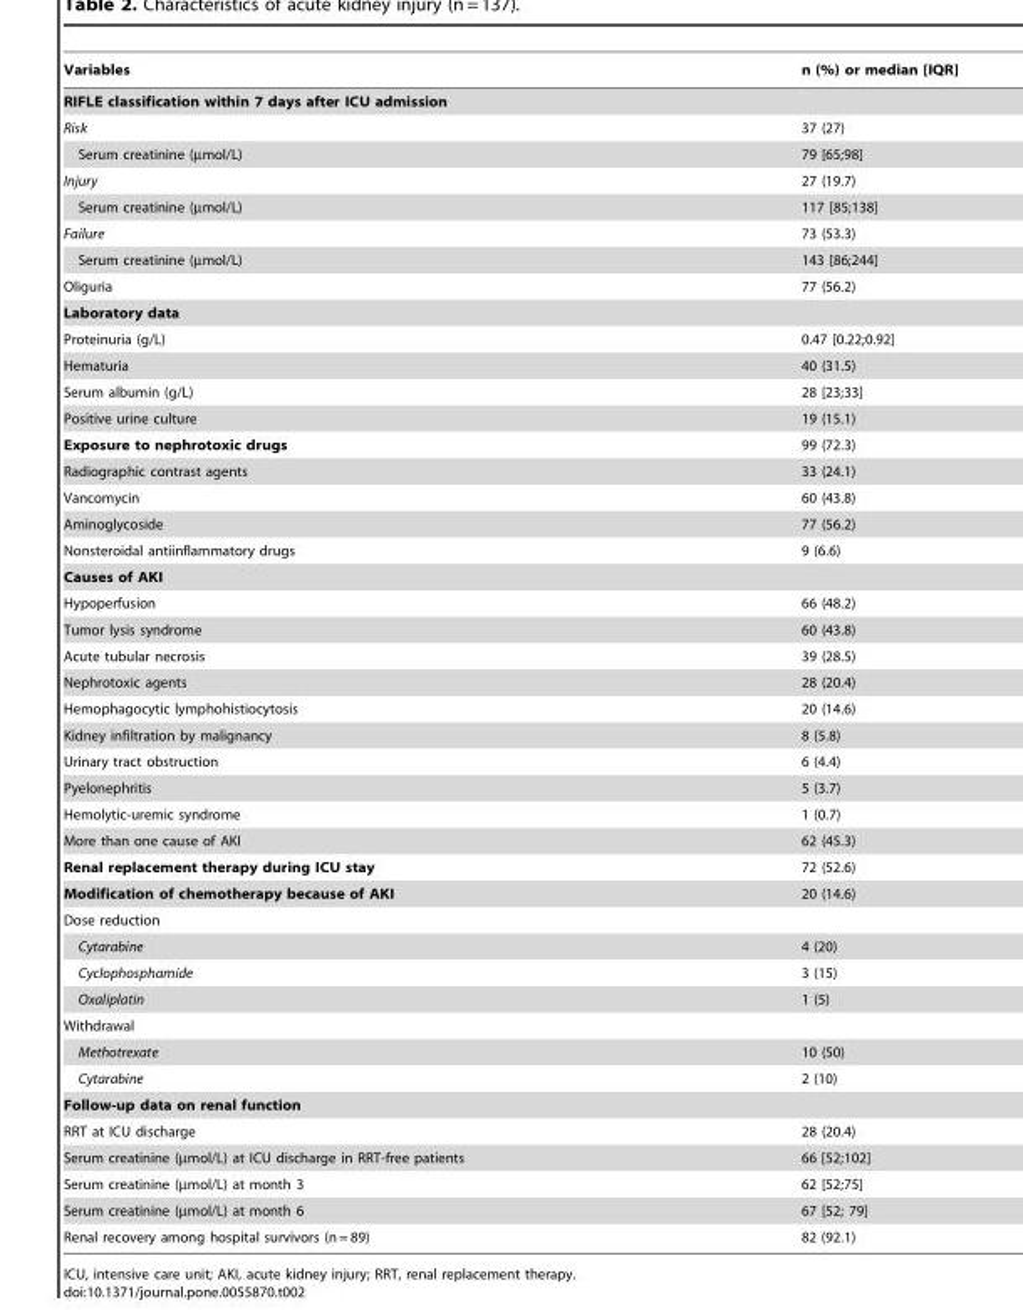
<table><thead><tr><td>Variables</td><td>n (%) or median [IQR]</td></tr></thead><tbody><tr><td colspan="2">RIFLE classification within 7 days after ICU admission</td></tr><tr><td>Risk</td><td>37 (27)</td></tr><tr><td>Serum creatinine (µmol/L)</td><td>79 [65;98]</td></tr><tr><td>Injury</td><td>27 (19.7)</td></tr><tr><td>Serum creatinine (µmol/L)</td><td>117 [85;138]</td></tr><tr><td>Failure</td><td>73 (53.3)</td></tr><tr><td>Serum creatinine (µmol/L)</td><td>143 [86;244]</td></tr><tr><td>Oliguria</td><td>77 (56.2)</td></tr><tr><td colspan="2">Laboratory data</td></tr><tr><td>Proteinuria (g/L)</td><td>0.47 [0.22;0.92]</td></tr><tr><td>Hematuria</td><td>40 (31.5)</td></tr><tr><td>Serum albumin (g/L)</td><td>28 [23;33]</td></tr><tr><td>Positive urine culture</td><td>19 (15.1)</td></tr><tr><td>Exposure to nephrotoxic drugs</td><td>99 (72.3)</td></tr><tr><td>Radiographic contrast agents</td><td>33 (24.1)</td></tr><tr><td>Vancomycin</td><td>60 (43.8)</td></tr><tr><td>Aminoglycoside</td><td>77 (56.2)</td></tr><tr><td>Nonsteroidal antiinflammatory drugs</td><td>9 (6.6)</td></tr><tr><td colspan="2">Causes of AKI</td></tr><tr><td>Hypoperfusion</td><td>66 (48.2)</td></tr><tr><td>Tumor lysis syndrome</td><td>60 (43.8)</td></tr><tr><td>Acute tubular necrosis</td><td>39 (28.5)</td></tr><tr><td>Nephrotoxic agents</td><td>28 (20.4)</td></tr><tr><td>Hemophagocytic lymphohistiocytosis</td><td>20 (14.6)</td></tr><tr><td>Kidney infiltration by malignancy</td><td>8 (5.8)</td></tr><tr><td>Urinary tract obstruction</td><td>6 (4.4)</td></tr><tr><td>Pyelonephritis</td><td>5 (3.7)</td></tr><tr><td>Hemolytic-uremic syndrome</td><td>1 (0.7)</td></tr><tr><td>More than one cause of AKI</td><td>62 (45.3)</td></tr><tr><td>Renal replacement therapy during ICU stay</td><td>72 (52.6)</td></tr><tr><td>Modification of chemotherapy because of AKI</td><td>20 (14.6)</td></tr><tr><td colspan="2">Dose reduction</td></tr><tr><td>Cytarabine</td><td>4 (20)</td></tr><tr><td>Cyclophosphamide</td><td>3 (15)</td></tr><tr><td>Oxaliplatin</td><td>1 (5)</td></tr><tr><td colspan="2">Withdrawal</td></tr><tr><td>Methotrexate</td><td>10 (50)</td></tr><tr><td>Cytarabine</td><td>2 (10)</td></tr><tr><td colspan="2">Follow-up data on renal function</td></tr><tr><td>RRT at ICU discharge</td><td>28 (20.4)</td></tr><tr><td>Serum creatinine (µmol/L) at ICU discharge in RRT-free patients</td><td>66 [52;102]</td></tr><tr><td>Serum creatinine (µmol/L) at month 3</td><td>62 [52;75]</td></tr><tr><td>Serum creatinine (µmol/L) at month 6</td><td>67 [52; 79]</td></tr><tr><td>Renal recovery among hospital survivors (n = 89)</td><td>82 (92.1)</td></tr></tbody></table>